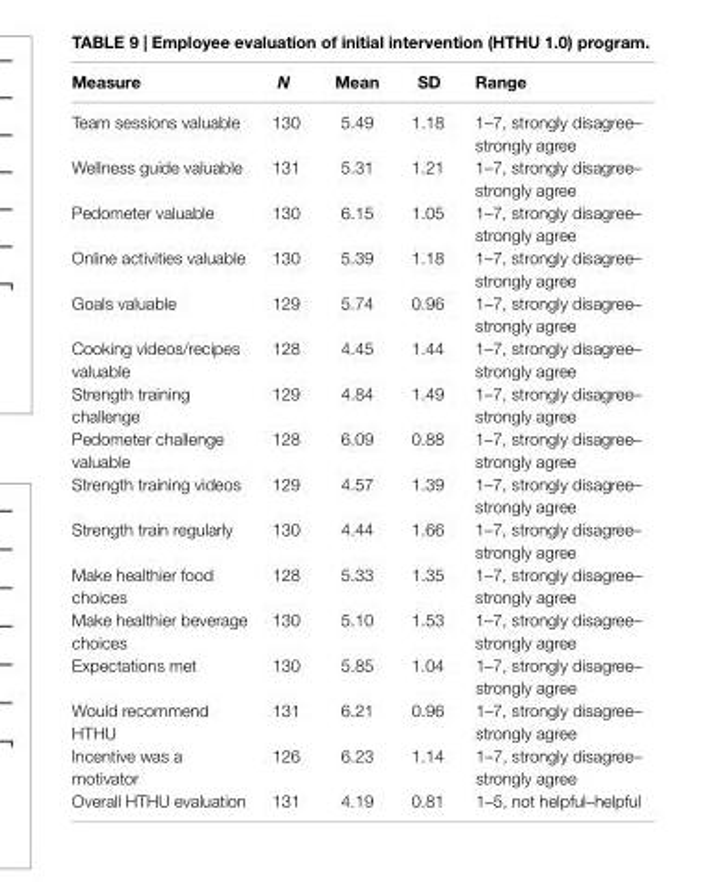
<table><thead><tr><td>Measure</td><td>N</td><td>Mean</td><td>sD</td><td>range</td></tr></thead><tbody><tr><td>Team sessions valuable</td><td>130</td><td>5.49</td><td>1.18</td><td>1–7, strongly disagree– strongly agree</td></tr><tr><td>Wellness guide valuable</td><td>131</td><td>5.31</td><td>1.21</td><td>1–7, strongly disagree– strongly agree</td></tr><tr><td>Pedometer valuable</td><td>130</td><td>6.15</td><td>1.05</td><td>1–7, strongly disagree– strongly agree</td></tr><tr><td>Online activities valuable</td><td>130</td><td>5.39</td><td>1.18</td><td>1–7, strongly disagree– strongly agree</td></tr><tr><td>Goals valuable</td><td>129</td><td>5.74</td><td>0.96</td><td>1–7, strongly disagree– strongly agree</td></tr><tr><td>Cooking videos/recipes valuable</td><td>128</td><td>4.45</td><td>1.44</td><td>1–7, strongly disagree– strongly agree</td></tr><tr><td>Strength training challenge</td><td>129</td><td>4.84</td><td>1.49</td><td>1–7, strongly disagree– strongly agree</td></tr><tr><td>Pedometer challenge valuable</td><td>128</td><td>6.09</td><td>0.88</td><td>1–7, strongly disagree– strongly agree</td></tr><tr><td>Strength training videos</td><td>129</td><td>4.57</td><td>1.39</td><td>1–7, strongly disagree– strongly agree</td></tr><tr><td>Strength train regularly</td><td>130</td><td>4.44</td><td>1.66</td><td>1–7, strongly disagree– strongly agree</td></tr><tr><td>Make healthier food choices</td><td>128</td><td>5.33</td><td>1.35</td><td>1–7, strongly disagree– strongly agree</td></tr><tr><td>Make healthier beverage choices</td><td>130</td><td>5.10</td><td>1.53</td><td>1–7, strongly disagree– strongly agree</td></tr><tr><td>Expectations met</td><td>130</td><td>5.85</td><td>1.04</td><td>1–7, strongly disagree– strongly agree</td></tr><tr><td>Would recommend HTHU</td><td>131</td><td>6.21</td><td>0.96</td><td>1–7, strongly disagree– strongly agree</td></tr><tr><td>Incentive was a motivator</td><td>126</td><td>6.23</td><td>1.14</td><td>1–7, strongly disagree– strongly agree</td></tr><tr><td>Overall HTHU evaluation</td><td>131</td><td>4.19</td><td>0.81</td><td>1–5, not helpful–helpful</td></tr></tbody></table>